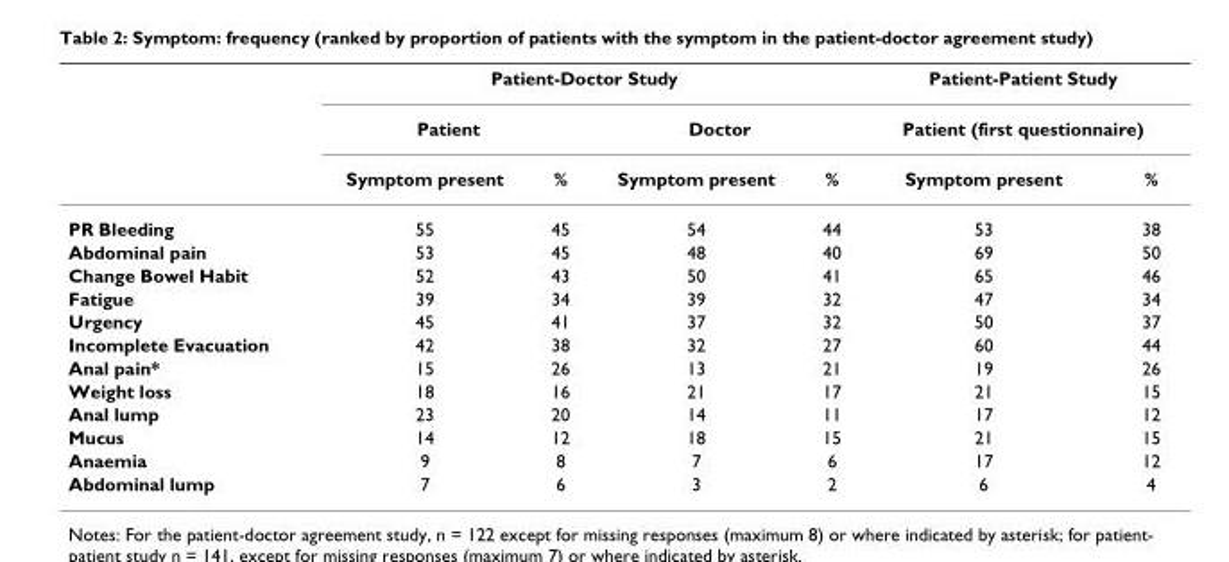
<table><thead><tr><td rowspan="3"></td><td colspan="4">Patient-Doctor Study</td><td rowspan="2" colspan="2">Patient-Patient Study Patient (first questionnaire)</td></tr><tr><td colspan="2">Patient</td><td colspan="2">Doctor</td></tr><tr><td>Symptom present</td><td>%</td><td>Symptom present</td><td>%</td><td>Symptom present</td><td>%</td></tr></thead><tbody><tr><td>PR Bleeding</td><td>55</td><td>45</td><td>54</td><td>44</td><td>53</td><td>38</td></tr><tr><td>Abdominal pain</td><td>53</td><td>45</td><td>48</td><td>40</td><td>69</td><td>50</td></tr><tr><td>Change Bowel Habit</td><td>52</td><td>43</td><td>50</td><td>41</td><td>65</td><td>46</td></tr><tr><td>Fatigue</td><td>39</td><td>34</td><td>39</td><td>32</td><td>47</td><td>34</td></tr><tr><td>Urgency</td><td>45</td><td>41</td><td>37</td><td>32</td><td>50</td><td>37</td></tr><tr><td>Incomplete Evacuation</td><td>42</td><td>38</td><td>32</td><td>27</td><td>60</td><td>44</td></tr><tr><td>Anal pain*</td><td>15</td><td>26</td><td>13</td><td>21</td><td>19</td><td>26</td></tr><tr><td>Weight loss</td><td>18</td><td>16</td><td>21</td><td>17</td><td>21</td><td>15</td></tr><tr><td>Anal lump</td><td>23</td><td>20</td><td>14</td><td>11</td><td>17</td><td>12</td></tr><tr><td>Mucus</td><td>14</td><td>12</td><td>18</td><td>15</td><td>21</td><td>15</td></tr><tr><td>Anaemia</td><td>9</td><td>8</td><td>7</td><td>6</td><td>17</td><td>12</td></tr><tr><td>Abdominal lump</td><td>7</td><td>6</td><td>3</td><td>2</td><td>6</td><td>4</td></tr></tbody></table>